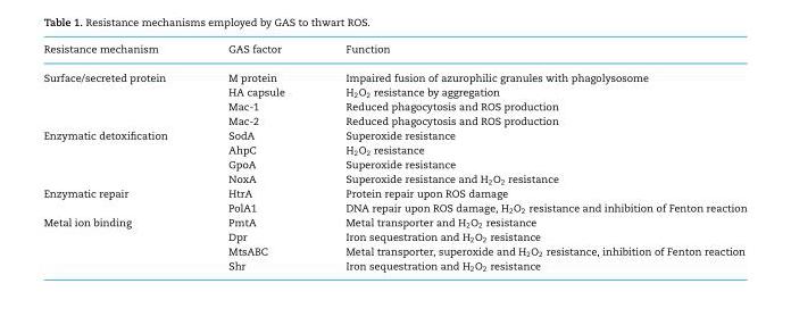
<table><thead><tr><td>Resistance mechanism</td><td>GAS factor</td><td>Function</td></tr></thead><tbody><tr><td rowspan="4">Surface/secreted protein</td><td>M protein</td><td>Impaired fusion of azurophilic granules with phagolysosome</td></tr><tr><td>HA capsule</td><td>H<sub>2</sub>O<sub>2</sub> resistance by aggregation</td></tr><tr><td>Mac-1</td><td>Reduced phagocytosis and ROS production</td></tr><tr><td>Mac-2</td><td>Reduced phagocytosis and ROS production</td></tr><tr><td rowspan="4">Enzymatic detoxification</td><td>SodA</td><td>Superoxide resistance</td></tr><tr><td>AhpC</td><td>H<sub>2</sub>O<sub>2</sub> resistance</td></tr><tr><td>GpoA</td><td>Superoxide resistance</td></tr><tr><td>NoxA</td><td>Superoxide resistance and H<sub>2</sub>O<sub>2</sub> resistance</td></tr><tr><td rowspan="2">Enzymatic repair</td><td>HtrA</td><td>Protein repair upon ROS damage</td></tr><tr><td>PolA1</td><td>DNA repair upon ROS damage, H<sub>2</sub>O<sub>2</sub> resistance and inhibition of Fenton reaction</td></tr><tr><td rowspan="4">Metal ion binding</td><td>PmtA</td><td>Metal transporter and H<sub>2</sub>O<sub>2</sub> resistance</td></tr><tr><td>Dpr</td><td>Iron sequestration and H<sub>2</sub>O<sub>2</sub> resistance</td></tr><tr><td>MtsABC</td><td>Metal transporter, superoxide and H<sub>2</sub>O<sub>2</sub> resistance, inhibition of Fenton reaction</td></tr><tr><td>Shr</td><td>Iron sequestration and H<sub>2</sub>O<sub>2</sub> resistance</td></tr></tbody></table>